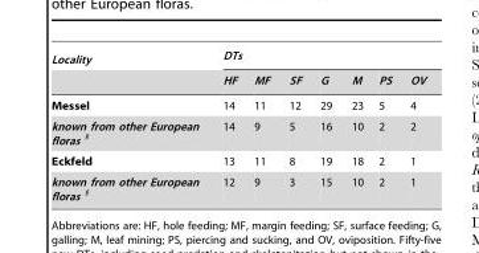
<table><thead><tr><td rowspan="2">Locality</td><td colspan="7">DTs</td></tr><tr><td>HF</td><td>MF</td><td>SF</td><td>G</td><td>M</td><td>PS</td><td>OV</td></tr></thead><tbody><tr><td>Messel</td><td>14</td><td>11</td><td>12</td><td>29</td><td>23</td><td>5</td><td>4</td></tr><tr><td>known from other European floras §</td><td>14</td><td>9</td><td>5</td><td>16</td><td>10</td><td>2</td><td>2</td></tr><tr><td>Eckfeld</td><td>13</td><td>11</td><td>8</td><td>19</td><td>18</td><td>2</td><td>1</td></tr><tr><td>known from other European floras §</td><td>12</td><td>9</td><td>3</td><td>15</td><td>10</td><td>2</td><td>1</td></tr></tbody></table>